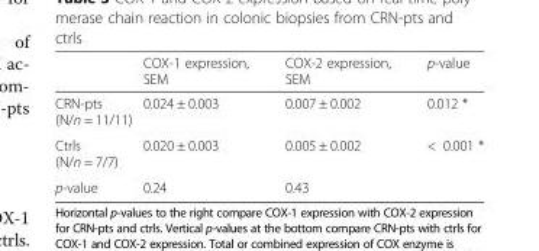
<table><thead><tr><td></td><td>COX-1 expression, SEM</td><td>COX-2 expression, SEM</td><td>p-value</td></tr></thead><tbody><tr><td>CRN-pts (N/n = 11/11)</td><td>0.024 ± 0.003</td><td>0.007 ± 0.002</td><td>0.012 *</td></tr><tr><td>Ctrls (N/n = 7/7)</td><td>0.020 ± 0.003</td><td>0.005 ± 0.002</td><td>&lt; 0.001 *</td></tr><tr><td>p-value</td><td>0.24</td><td>0.43</td><td></td></tr></tbody></table>